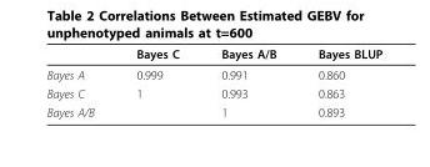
<table><thead><tr><td></td><td>Bayes C</td><td>Bayes A/B</td><td>Bayes BLUP</td></tr></thead><tbody><tr><td>Bayes A</td><td>0.999</td><td>0.991</td><td>0.860</td></tr><tr><td>Bayes C</td><td>1</td><td>0.993</td><td>0.863</td></tr><tr><td>Bayes A/B</td><td></td><td>1</td><td>0.893</td></tr></tbody></table>